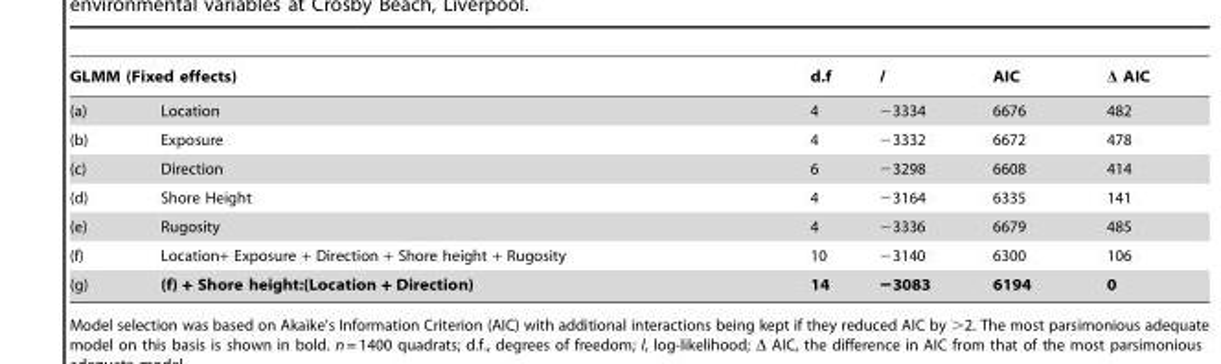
<table><thead><tr><td colspan="2">GLMM (Fixed effects)</td><td rowspan="2">d.f 4</td><td rowspan="2">l −3334</td><td rowspan="2">AIC 6676</td><td rowspan="2">Δ AIC 482</td></tr><tr><td>(a)</td><td>Location</td></tr></thead><tbody><tr><td>(b)</td><td>Exposure</td><td>4</td><td>−3332</td><td>6672</td><td>478</td></tr><tr><td>(c)</td><td>Direction</td><td>6</td><td>−3298</td><td>6608</td><td>414</td></tr><tr><td>(d)</td><td>Shore Height</td><td>4</td><td>−3164</td><td>6335</td><td>141</td></tr><tr><td>(e)</td><td>Rugosity</td><td>4</td><td>−3336</td><td>6679</td><td>485</td></tr><tr><td>(f)</td><td>Location+ Exposure + Direction + Shore height + Rugosity</td><td>10</td><td>−3140</td><td>6300</td><td>106</td></tr><tr><td>(g)</td><td>(f) + Shore height:(Location + Direction)</td><td>14</td><td>−3083</td><td>6194</td><td>0</td></tr></tbody></table>